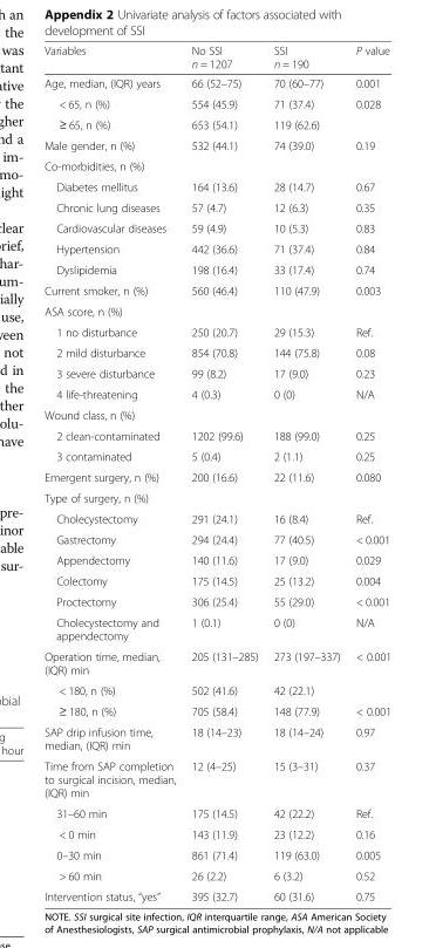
<table><thead><tr><td>Variables</td><td>No SSI n = 1207</td><td>SSI n = 190</td><td>P value</td></tr></thead><tbody><tr><td>Age, median, (IQR) years</td><td>66 (52–75)</td><td>70 (60–77)</td><td>0.001</td></tr><tr><td>&lt; 65, n (%)</td><td>554 (45.9)</td><td>71 (37.4)</td><td>0.028</td></tr><tr><td>≥ 65, n (%)</td><td>653 (54.1)</td><td>119 (62.6)</td><td></td></tr><tr><td>Male gender, n (%)</td><td>532 (44.1)</td><td>74 (39.0)</td><td>0.19</td></tr><tr><td colspan="4">Co-morbidities, n (%)</td></tr><tr><td>Diabetes mellitus</td><td>164 (13.6)</td><td>28 (14.7)</td><td>0.67</td></tr><tr><td>Chronic lung diseases</td><td>57 (4.7)</td><td>12 (6.3)</td><td>0.35</td></tr><tr><td>Cardiovascular diseases</td><td>59 (4.9)</td><td>10 (5.3)</td><td>0.83</td></tr><tr><td>Hypertension</td><td>442 (36.6)</td><td>71 (37.4)</td><td>0.84</td></tr><tr><td>Dyslipidemia</td><td>198 (16.4)</td><td>33 (17.4)</td><td>0.74</td></tr><tr><td>Current smoker, n (%)</td><td>560 (46.4)</td><td>110 (47.9)</td><td>0.003</td></tr><tr><td colspan="4">ASA score, n (%)</td></tr><tr><td>1 no disturbance</td><td>250 (20.7)</td><td>29 (15.3)</td><td>Ref.</td></tr><tr><td>2 mild disturbance</td><td>854 (70.8)</td><td>144 (75.8)</td><td>0.08</td></tr><tr><td>3 severe disturbance</td><td>99 (8.2)</td><td>17 (9.0)</td><td>0.23</td></tr><tr><td>4 life-threatening</td><td>4 (0.3)</td><td>0 (0)</td><td>N/A</td></tr><tr><td colspan="4">Wound class, n (%)</td></tr><tr><td>2 clean-contaminated</td><td>1202 (99.6)</td><td>188 (99.0)</td><td>0.25</td></tr><tr><td>3 contaminated</td><td>5 (0.4)</td><td>2 (1.1)</td><td>0.25</td></tr><tr><td>Emergent surgery, n (%)</td><td>200 (16.6)</td><td>22 (11.6)</td><td>0.080</td></tr><tr><td colspan="4">Type of surgery, n (%)</td></tr><tr><td>Cholecystectomy</td><td>291 (24.1)</td><td>16 (8.4)</td><td>Ref.</td></tr><tr><td>Gastrectomy</td><td>294 (24.4)</td><td>77 (40.5)</td><td>&lt; 0.001</td></tr><tr><td>Appendectomy</td><td>140 (11.6)</td><td>17 (9.0)</td><td>0.029</td></tr><tr><td>Colectomy</td><td>175 (14.5)</td><td>25 (13.2)</td><td>0.004</td></tr><tr><td>Proctectomy</td><td>306 (25.4)</td><td>55 (29.0)</td><td>&lt; 0.001</td></tr><tr><td>Cholecystectomy and appendectomy</td><td>1 (0.1)</td><td>0 (0)</td><td>N/A</td></tr><tr><td>Operation time, median, (IQR) min</td><td>205 (131–285)</td><td>273 (197–337)</td><td>&lt; 0.001</td></tr><tr><td>&lt; 180, n (%)</td><td>502 (41.6)</td><td>42 (22.1)</td><td></td></tr><tr><td>≥ 180, n (%)</td><td>705 (58.4)</td><td>148 (77.9)</td><td>&lt; 0.001</td></tr><tr><td>SAP drip infusion time, median, (IQR) min</td><td>18 (14–23)</td><td>18 (14–24)</td><td>0.97</td></tr><tr><td>Time from SAP completion to surgical incision, median, (IQR) min</td><td>12 (4–25)</td><td>15 (3–31)</td><td>0.37</td></tr><tr><td>31–60 min</td><td>175 (14.5)</td><td>42 (22.2)</td><td>Ref.</td></tr><tr><td>&lt; 0 min</td><td>143 (11.9)</td><td>23 (12.2)</td><td>0.16</td></tr><tr><td>0–30 min</td><td>861 (71.4)</td><td>119 (63.0)</td><td>0.005</td></tr><tr><td>&gt; 60 min</td><td>26 (2.2)</td><td>6 (3.2)</td><td>0.52</td></tr><tr><td>Intervention status, “yes”</td><td>395 (32.7)</td><td>60 (31.6)</td><td>0.75</td></tr></tbody></table>